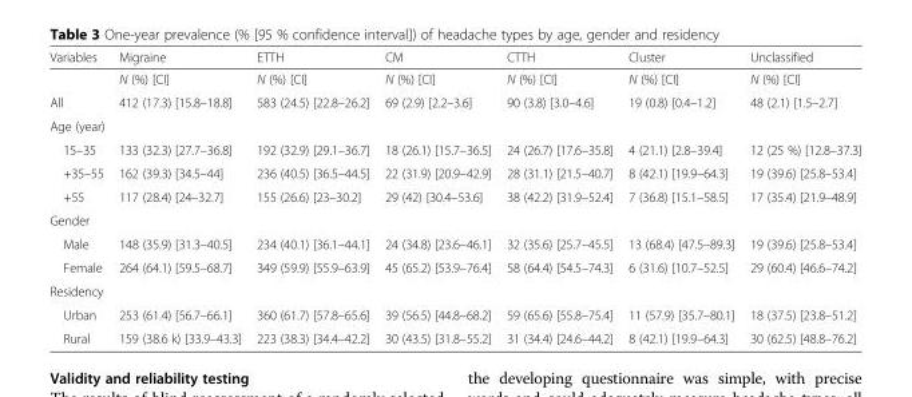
<table><thead><tr><td>Variables</td><td>Migraine</td><td>ETTH</td><td>CM</td><td>CTTH</td><td>Cluster</td><td>Unclassified</td></tr></thead><tbody><tr><td></td><td>N (%) [CI]</td><td>N (%) [CI]</td><td>N (%) [CI]</td><td>N (%) [CI]</td><td>N (%) [CI]</td><td>N (%) [CI]</td></tr><tr><td>All</td><td>412 (17.3) [15.8–18.8]</td><td>583 (24.5) [22.8–26.2]</td><td>69 (2.9) [2.2–3.6]</td><td>90 (3.8) [3.0–4.6]</td><td>19 (0.8) [0.4–1.2]</td><td>48 (2.1) [1.5–2.7]</td></tr><tr><td colspan="7">Age (year)</td></tr><tr><td>15–35</td><td>133 (32.3) [27.7–36.8]</td><td>192 (32.9) [29.1–36.7]</td><td>18 (26.1) [15.7–36.5]</td><td>24 (26.7) [17.6–35.8]</td><td>4 (21.1) [2.8–39.4]</td><td>12 (25 %) [12.8–37.3]</td></tr><tr><td>+35–55</td><td>162 (39.3) [34.5–44]</td><td>236 (40.5) [36.5–44.5]</td><td>22 (31.9) [20.9–42.9]</td><td>28 (31.1) [21.5–40.7]</td><td>8 (42.1) [19.9–64.3]</td><td>19 (39.6) [25.8–53.4]</td></tr><tr><td>+55</td><td>117 (28.4) [24–32.7]</td><td>155 (26.6) [23–30.2]</td><td>29 (42) [30.4–53.6]</td><td>38 (42.2) [31.9–52.4]</td><td>7 (36.8) [15.1–58.5]</td><td>17 (35.4) [21.9–48.9]</td></tr><tr><td colspan="7">Gender</td></tr><tr><td>Male</td><td>148 (35.9) [31.3–40.5]</td><td>234 (40.1) [36.1–44.1]</td><td>24 (34.8) [23.6–46.1]</td><td>32 (35.6) [25.7–45.5]</td><td>13 (68.4) [47.5–89.3]</td><td>19 (39.6) [25.8–53.4]</td></tr><tr><td>Female</td><td>264 (64.1) [59.5–68.7]</td><td>349 (59.9) [55.9–63.9]</td><td>45 (65.2) [53.9–76.4]</td><td>58 (64.4) [54.5–74.3]</td><td>6 (31.6) [10.7–52.5]</td><td>29 (60.4) [46.6–74.2]</td></tr><tr><td colspan="7">Residency</td></tr><tr><td>Urban</td><td>253 (61.4) [56.7–66.1]</td><td>360 (61.7) [57.8–65.6]</td><td>39 (56.5) [44.8–68.2]</td><td>59 (65.6) [55.8–75.4]</td><td>11 (57.9) [35.7–80.1]</td><td>18 (37.5) [23.8–51.2]</td></tr><tr><td>Rural</td><td>159 (38.6 k) [33.9–43.3]</td><td>223 (38.3) [34.4–42.2]</td><td>30 (43.5) [31.8–55.2]</td><td>31 (34.4) [24.6–44.2]</td><td>8 (42.1) [19.9–64.3]</td><td>30 (62.5) [48.8–76.2]</td></tr></tbody></table>